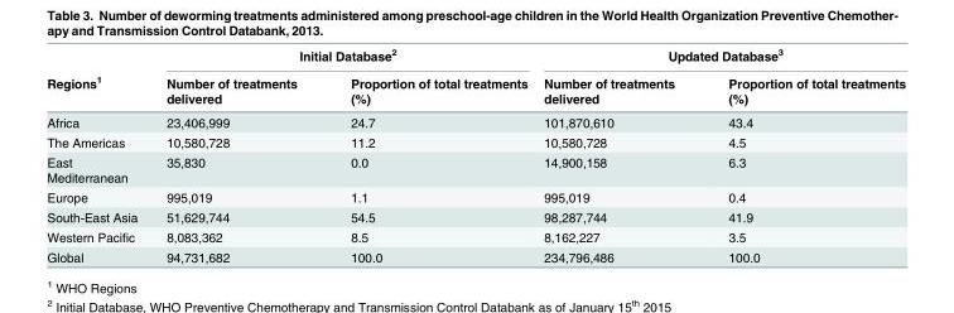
<table><thead><tr><td rowspan="2">Regions<sup>1</sup></td><td colspan="2">Initial Database<sup>2</sup></td><td colspan="2">Updated Database<sup>3</sup></td></tr><tr><td>Number of treatments delivered</td><td>Proportion of total treatments (%)</td><td>Number of treatments delivered</td><td>Proportion of total treatments (%)</td></tr></thead><tbody><tr><td>Africa</td><td>23,406,999</td><td>24.7</td><td>101,870,610</td><td>43.4</td></tr><tr><td>The Americas</td><td>10,580,728</td><td>11.2</td><td>10,580,728</td><td>4.5</td></tr><tr><td>East Mediterranean</td><td>35,830</td><td>0.0</td><td>14,900,158</td><td>6.3</td></tr><tr><td>Europe</td><td>995,019</td><td>1.1</td><td>995,019</td><td>0.4</td></tr><tr><td>South-East Asia</td><td>51,629,744</td><td>54.5</td><td>98,287,744</td><td>41.9</td></tr><tr><td>Western Pacific</td><td>8,083,362</td><td>8.5</td><td>8,162,227</td><td>3.5</td></tr><tr><td>Global</td><td>94,731,682</td><td>100.0</td><td>234,796,486</td><td>100.0</td></tr></tbody></table>